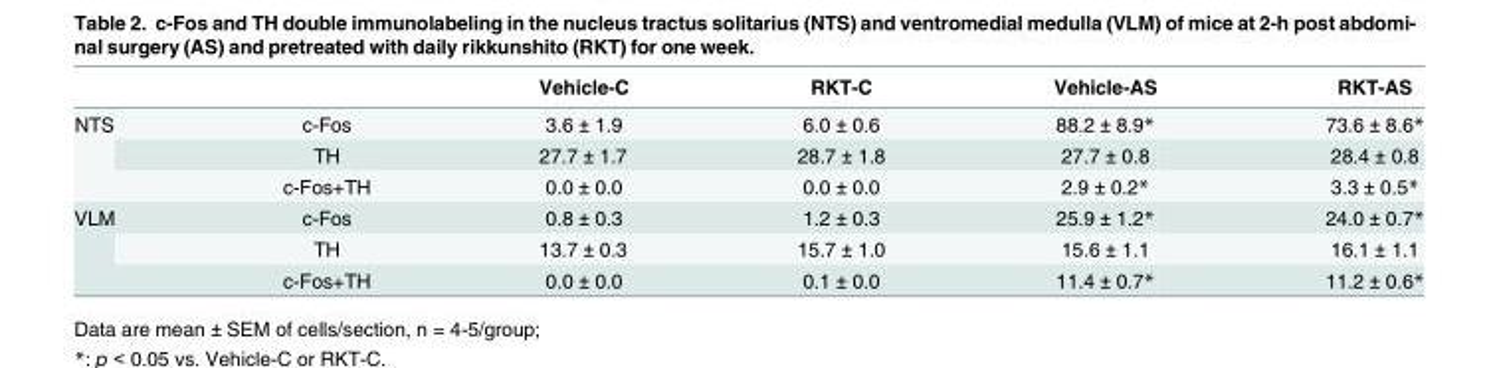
<table><thead><tr><td></td><td></td><td>Vehicle-C</td><td>RKT-C</td><td>Vehicle-AS</td><td>RKT-AS</td></tr></thead><tbody><tr><td rowspan="3">NTS</td><td>c-Fos</td><td>3.6 ± 1.9</td><td>6.0 ± 0.6</td><td>88.2 ± 8.9*</td><td>73.6 ± 8.6*</td></tr><tr><td>TH</td><td>27.7 ± 1.7</td><td>28.7 ± 1.8</td><td>27.7 ± 0.8</td><td>28.4 ± 0.8</td></tr><tr><td>c-Fos+TH</td><td>0.0 ± 0.0</td><td>0.0 ± 0.0</td><td>2.9 ± 0.2*</td><td>3.3 ± 0.5*</td></tr><tr><td rowspan="3">VLM</td><td>c-Fos</td><td>0.8 ± 0.3</td><td>1.2 ± 0.3</td><td>25.9 ± 1.2*</td><td>24.0 ± 0.7*</td></tr><tr><td>TH</td><td>13.7 ± 0.3</td><td>15.7 ± 1.0</td><td>15.6 ± 1.1</td><td>16.1 ± 1.1</td></tr><tr><td>c-Fos+TH</td><td>0.0 ± 0.0</td><td>0.1 ± 0.0</td><td>11.4 ± 0.7*</td><td>11.2 ± 0.6*</td></tr></tbody></table>